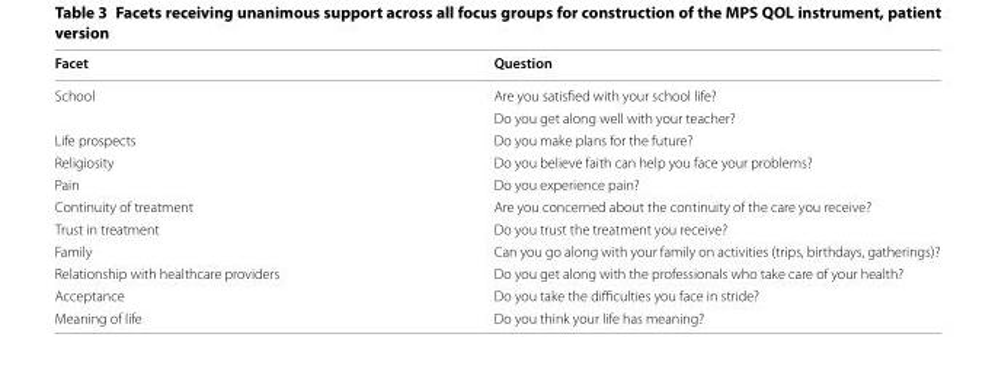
<table><thead><tr><td>Facet</td><td>Question</td></tr></thead><tbody><tr><td rowspan="2">School</td><td>Are you satisfied with your school life?</td></tr><tr><td>Do you get along well with your teacher?</td></tr><tr><td>Life prospects</td><td>Do you make plans for the future?</td></tr><tr><td>Religiosity</td><td>Do you believe faith can help you face your problems?</td></tr><tr><td>Pain</td><td>Do you experience pain?</td></tr><tr><td>Continuity of treatment</td><td>Are you concerned about the continuity of the care you receive?</td></tr><tr><td>Trust in treatment</td><td>Do you trust the treatment you receive?</td></tr><tr><td>Family</td><td>Can you go along with your family on activities (trips, birthdays, gatherings)?</td></tr><tr><td>Relationship with healthcare providers</td><td>Do you get along with the professionals who take care of your health?</td></tr><tr><td>Acceptance</td><td>Do you take the difficulties you face in stride?</td></tr><tr><td>Meaning of life</td><td>Do you think your life has meaning?</td></tr></tbody></table>